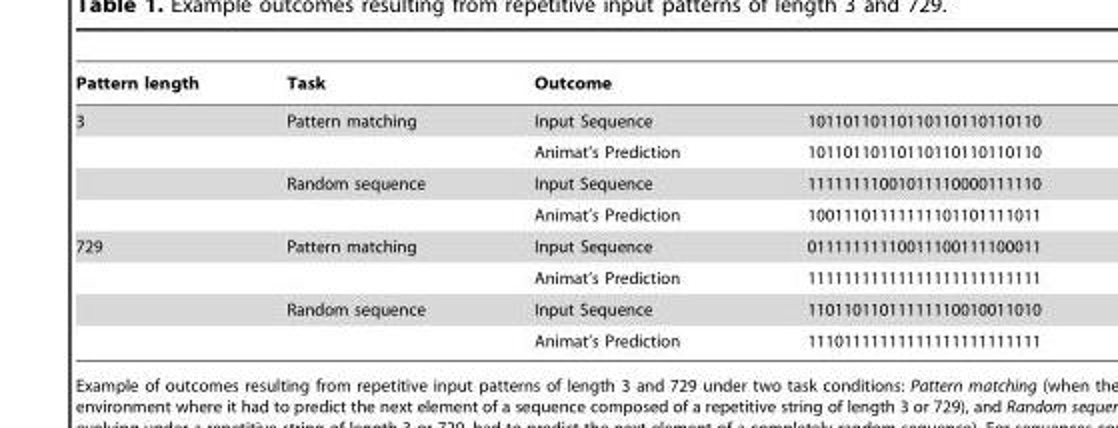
<table><thead><tr><td rowspan="2">Pattern length 3</td><td rowspan="2">Task Pattern matching</td><td colspan="2">Outcome</td></tr><tr><td>Input Sequence</td><td>10110110110110110110110110</td></tr></thead><tbody><tr><td></td><td></td><td>Animat’s Prediction</td><td>10110110110110110110110110</td></tr><tr><td></td><td>Random sequence</td><td>Input Sequence</td><td>11111111001011110000111110</td></tr><tr><td></td><td></td><td>Animat’s Prediction</td><td>10011101111111101101111011</td></tr><tr><td rowspan="4">729</td><td>Pattern matching</td><td>Input Sequence</td><td>01111111110011100111100011</td></tr><tr><td></td><td>Animat’s Prediction</td><td>11111111111111111111111111</td></tr><tr><td>Random sequence</td><td>Input Sequence</td><td>11011011011111110010011010</td></tr><tr><td></td><td>Animat’s Prediction</td><td>11101111111111111111111111</td></tr></tbody></table>